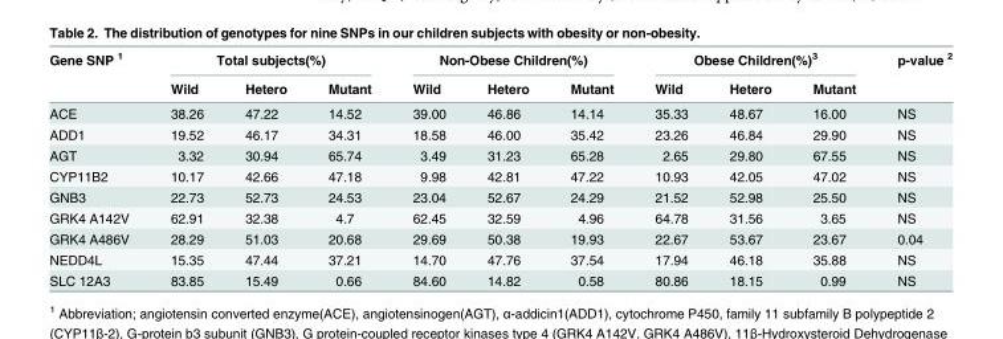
<table><thead><tr><td rowspan="2">Gene SNP <sup>1</sup></td><td colspan="3">Total subjects(%)</td><td colspan="3">Non-Obese Children(%)</td><td colspan="3">Obese Children(%)<sup>3</sup></td><td rowspan="2">p-value <sup>2</sup></td></tr><tr><td>Wild</td><td>Hetero</td><td>Mutant</td><td>Wild</td><td>Hetero</td><td>Mutant</td><td>Wild</td><td>Hetero</td><td>Mutant</td></tr></thead><tbody><tr><td>ACE</td><td>38.26</td><td>47.22</td><td>14.52</td><td>39.00</td><td>46.86</td><td>14.14</td><td>35.33</td><td>48.67</td><td>16.00</td><td>NS</td></tr><tr><td>ADD1</td><td>19.52</td><td>46.17</td><td>34.31</td><td>18.58</td><td>46.00</td><td>35.42</td><td>23.26</td><td>46.84</td><td>29.90</td><td>NS</td></tr><tr><td>AGT</td><td>3.32</td><td>30.94</td><td>65.74</td><td>3.49</td><td>31.23</td><td>65.28</td><td>2.65</td><td>29.80</td><td>67.55</td><td>NS</td></tr><tr><td>CYP11B2</td><td>10.17</td><td>42.66</td><td>47.18</td><td>9.98</td><td>42.81</td><td>47.22</td><td>10.93</td><td>42.05</td><td>47.02</td><td>NS</td></tr><tr><td>GNB3</td><td>22.73</td><td>52.73</td><td>24.53</td><td>23.04</td><td>52.67</td><td>24.29</td><td>21.52</td><td>52.98</td><td>25.50</td><td>NS</td></tr><tr><td>GRK4 A142V</td><td>62.91</td><td>32.38</td><td>4.7</td><td>62.45</td><td>32.59</td><td>4.96</td><td>64.78</td><td>31.56</td><td>3.65</td><td>NS</td></tr><tr><td>GRK4 A486V</td><td>28.29</td><td>51.03</td><td>20.68</td><td>29.69</td><td>50.38</td><td>19.93</td><td>22.67</td><td>53.67</td><td>23.67</td><td>0.04</td></tr><tr><td>NEDD4L</td><td>15.35</td><td>47.44</td><td>37.21</td><td>14.70</td><td>47.76</td><td>37.54</td><td>17.94</td><td>46.18</td><td>35.88</td><td>NS</td></tr><tr><td>SLC 12A3</td><td>83.85</td><td>15.49</td><td>0.66</td><td>84.60</td><td>14.82</td><td>0.58</td><td>80.86</td><td>18.15</td><td>0.99</td><td>NS</td></tr></tbody></table>